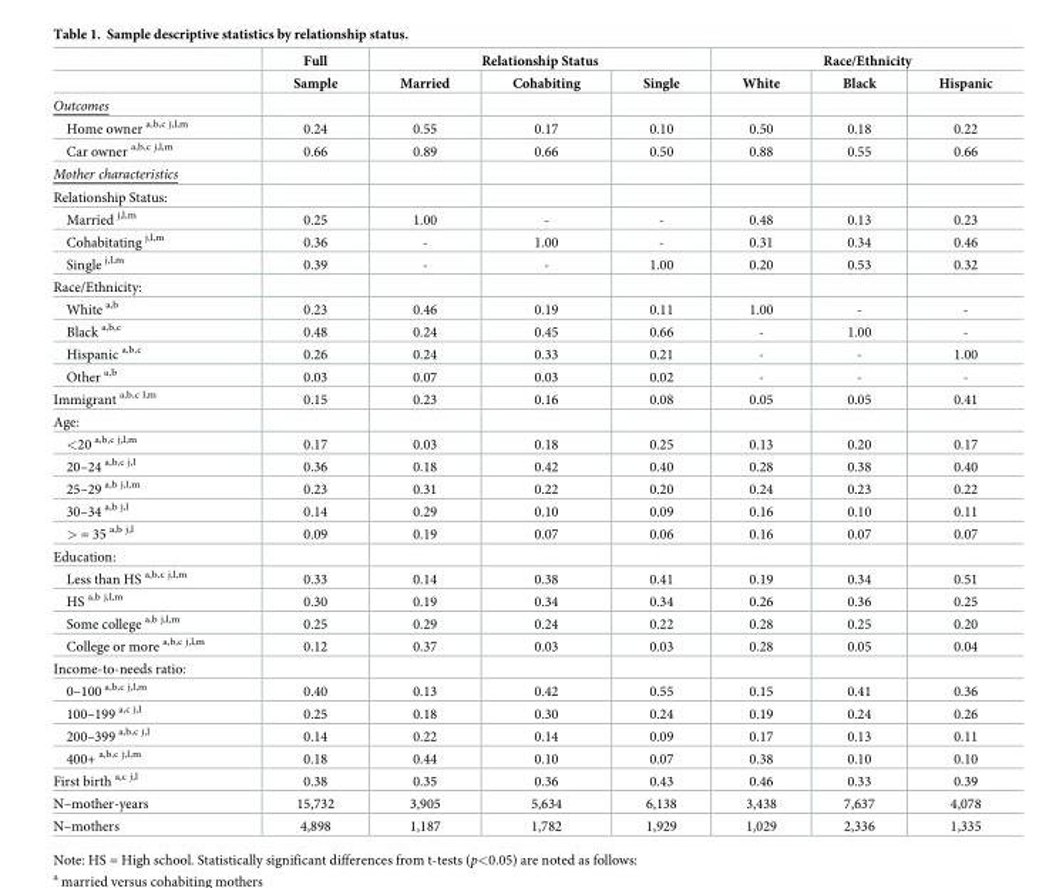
<table><thead><tr><td rowspan="2"></td><td rowspan="2">Full Sample</td><td colspan="3">Relationship Status</td><td colspan="3">Race/Ethnicity</td></tr><tr><td>Married</td><td>Cohabiting</td><td>Single</td><td>White</td><td>Black</td><td>Hispanic</td></tr></thead><tbody><tr><td colspan="8">Outcomes</td></tr><tr><td>Home owner <sup>a,b,c j,l,m</sup></td><td>0.24</td><td>0.55</td><td>0.17</td><td>0.10</td><td>0.50</td><td>0.18</td><td>0.22</td></tr><tr><td>Car owner <sup>a,b,c j,l,m</sup></td><td>0.66</td><td>0.89</td><td>0.66</td><td>0.50</td><td>0.88</td><td>0.55</td><td>0.66</td></tr><tr><td colspan="8">Mother characteristics</td></tr><tr><td colspan="8">Relationship Status:</td></tr><tr><td>Married <sup>j,l,m</sup></td><td>0.25</td><td>1.00</td><td>-</td><td>-</td><td>0.48</td><td>0.13</td><td>0.23</td></tr><tr><td>Cohabitating <sup>j,l,m</sup></td><td>0.36</td><td>-</td><td>1.00</td><td>-</td><td>0.31</td><td>0.34</td><td>0.46</td></tr><tr><td>Single <sup>j,l,m</sup></td><td>0.39</td><td>-</td><td>-</td><td>1.00</td><td>0.20</td><td>0.53</td><td>0.32</td></tr><tr><td colspan="8">Race/Ethnicity:</td></tr><tr><td>White <sup>a,b</sup></td><td>0.23</td><td>0.46</td><td>0.19</td><td>0.11</td><td>1.00</td><td>-</td><td>-</td></tr><tr><td>Black <sup>a,b,c</sup></td><td>0.48</td><td>0.24</td><td>0.45</td><td>0.66</td><td>-</td><td>1.00</td><td>-</td></tr><tr><td>Hispanic <sup>a,b,c</sup></td><td>0.26</td><td>0.24</td><td>0.33</td><td>0.21</td><td>-</td><td>-</td><td>1.00</td></tr><tr><td>Other <sup>a,b</sup></td><td>0.03</td><td>0.07</td><td>0.03</td><td>0.02</td><td>-</td><td>-</td><td>-</td></tr><tr><td>Immigrant <sup>a,b,c l,m</sup></td><td>0.15</td><td>0.23</td><td>0.16</td><td>0.08</td><td>0.05</td><td>0.05</td><td>0.41</td></tr><tr><td colspan="8">Age:</td></tr><tr><td>&lt;20 <sup>a,b,c j,l,m</sup></td><td>0.17</td><td>0.03</td><td>0.18</td><td>0.25</td><td>0.13</td><td>0.20</td><td>0.17</td></tr><tr><td>20–24 <sup>a,b,c j,l</sup></td><td>0.36</td><td>0.18</td><td>0.42</td><td>0.40</td><td>0.28</td><td>0.38</td><td>0.40</td></tr><tr><td>25–29 <sup>a,b j,l,m</sup></td><td>0.23</td><td>0.31</td><td>0.22</td><td>0.20</td><td>0.24</td><td>0.23</td><td>0.22</td></tr><tr><td>30–34 <sup>a,b j,l</sup></td><td>0.14</td><td>0.29</td><td>0.10</td><td>0.09</td><td>0.16</td><td>0.10</td><td>0.11</td></tr><tr><td>&gt; = 35 <sup>a,b j,l</sup></td><td>0.09</td><td>0.19</td><td>0.07</td><td>0.06</td><td>0.16</td><td>0.07</td><td>0.07</td></tr><tr><td colspan="8">Education:</td></tr><tr><td>Less than HS <sup>a,b,c j,l,m</sup></td><td>0.33</td><td>0.14</td><td>0.38</td><td>0.41</td><td>0.19</td><td>0.34</td><td>0.51</td></tr><tr><td>HS <sup>a,b j,l,m</sup></td><td>0.30</td><td>0.19</td><td>0.34</td><td>0.34</td><td>0.26</td><td>0.36</td><td>0.25</td></tr><tr><td>Some college <sup>a,b j,l,m</sup></td><td>0.25</td><td>0.29</td><td>0.24</td><td>0.22</td><td>0.28</td><td>0.25</td><td>0.20</td></tr><tr><td>College or more <sup>a,b,c j,l,m</sup></td><td>0.12</td><td>0.37</td><td>0.03</td><td>0.03</td><td>0.28</td><td>0.05</td><td>0.04</td></tr><tr><td colspan="8">Income-to-needs ratio:</td></tr><tr><td>0–100 <sup>a,b,c j,l,m</sup></td><td>0.40</td><td>0.13</td><td>0.42</td><td>0.55</td><td>0.15</td><td>0.41</td><td>0.36</td></tr><tr><td>100–199 <sup>a,c j,l</sup></td><td>0.25</td><td>0.18</td><td>0.30</td><td>0.24</td><td>0.19</td><td>0.24</td><td>0.26</td></tr><tr><td>200–399 <sup>a,b,c j,l</sup></td><td>0.14</td><td>0.22</td><td>0.14</td><td>0.09</td><td>0.17</td><td>0.13</td><td>0.11</td></tr><tr><td>400+ <sup>a,b,c j,l,m</sup></td><td>0.18</td><td>0.44</td><td>0.10</td><td>0.07</td><td>0.38</td><td>0.10</td><td>0.10</td></tr><tr><td>First birth <sup>a,c j,l</sup></td><td>0.38</td><td>0.35</td><td>0.36</td><td>0.43</td><td>0.46</td><td>0.33</td><td>0.39</td></tr><tr><td>N–mother-years</td><td>15,732</td><td>3,905</td><td>5,634</td><td>6,138</td><td>3,438</td><td>7,637</td><td>4,078</td></tr><tr><td>N–mothers</td><td>4,898</td><td>1,187</td><td>1,782</td><td>1,929</td><td>1,029</td><td>2,336</td><td>1,335</td></tr></tbody></table>